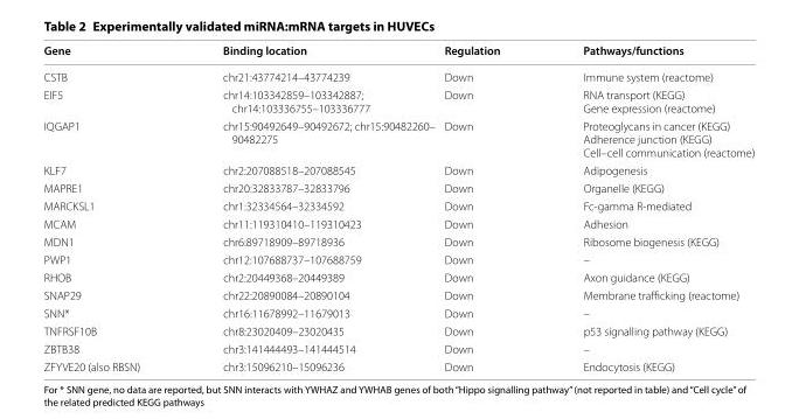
<table><thead><tr><td>Gene</td><td>Binding location</td><td>Regulation</td><td>Pathways/functions</td></tr></thead><tbody><tr><td>CSTB</td><td>chr21:43774214–43774239</td><td>Down</td><td>Immune system (reactome)</td></tr><tr><td>EIF5</td><td>chr14:103342859–103342887; chr14:103336755–103336777</td><td>Down</td><td>RNA transport (KEGG) Gene expression (reactome)</td></tr><tr><td>IQGAP1</td><td>chr15:90492649–90492672; chr15:90482260– 90482275</td><td>Down</td><td>Proteoglycans in cancer (KEGG) Adherence junction (KEGG) Cell–cell communication (reactome)</td></tr><tr><td>KLF7</td><td>chr2:207088518–207088545</td><td>Down</td><td>Adipogenesis</td></tr><tr><td>MAPRE1</td><td>chr20:32833787–32833796</td><td>Down</td><td>Organelle (KEGG)</td></tr><tr><td>MARCKSL1</td><td>chr1:32334564–32334592</td><td>Down</td><td>Fc‑gamma R‑mediated</td></tr><tr><td>MCAM</td><td>chr11:119310410–119310423</td><td>Down</td><td>Adhesion</td></tr><tr><td>MDN1</td><td>chr6:89718909–89718936</td><td>Down</td><td>Ribosome biogenesis (KEGG)</td></tr><tr><td>PWP1</td><td>chr12:107688737–107688759</td><td>Down</td><td>–</td></tr><tr><td>RHOB</td><td>chr2:20449368–20449389</td><td>Down</td><td>Axon guidance (KEGG)</td></tr><tr><td>SNAP29</td><td>chr22:20890084–20890104</td><td>Down</td><td>Membrane trafficking (reactome)</td></tr><tr><td>SNN*</td><td>chr16:11678992–11679013</td><td>Down</td><td>–</td></tr><tr><td>TNFRSF10B</td><td>chr8:23020409–23020435</td><td>Down</td><td>p53 signalling pathway (KEGG)</td></tr><tr><td>ZBTB38</td><td>chr3:141444493–141444514</td><td>Down</td><td>–</td></tr><tr><td>ZFYVE20 (also RBSN)</td><td>chr3:15096210–15096236</td><td>Down</td><td>Endocytosis (KEGG)</td></tr></tbody></table>